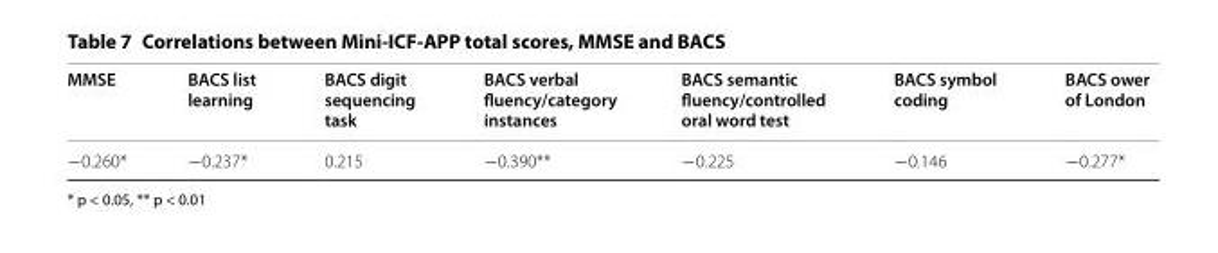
<table><thead><tr><td>MMSE</td><td>BACS list learning</td><td>BACS digit sequencing task</td><td>BACS verbal fluency/category instances</td><td>BACS semantic fluency/controlled oral word test</td><td>BACS symbol coding</td><td>BACS ower of London</td></tr></thead><tbody><tr><td>−0.260*</td><td>−0.237*</td><td>0.215</td><td>−0.390**</td><td>−0.225</td><td>−0.146</td><td>−0.277*</td></tr></tbody></table>